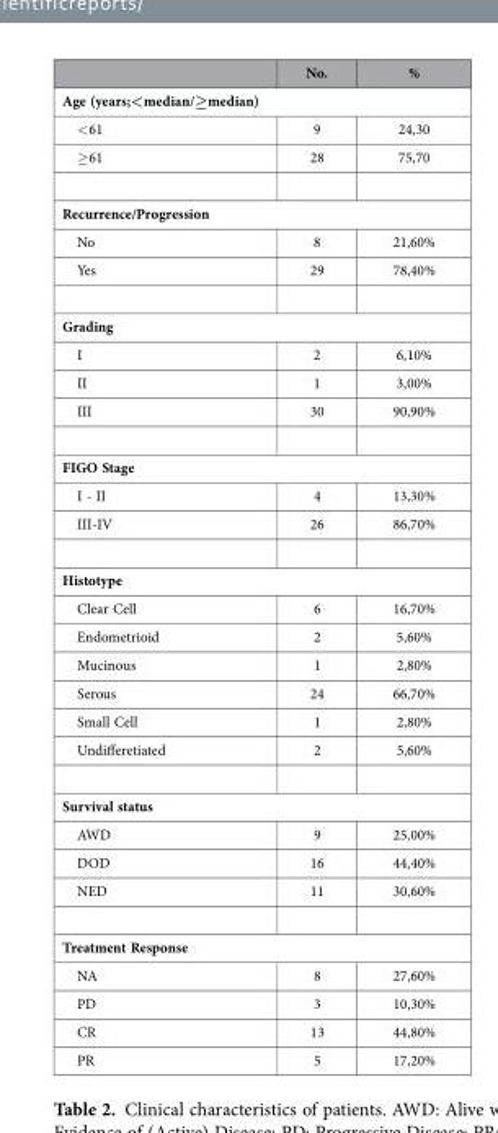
<table><thead><tr><td></td><td>No.</td><td>%</td></tr></thead><tbody><tr><td colspan="3">Age (years;&lt;median/≥median)</td></tr><tr><td>&lt; 61</td><td>9</td><td>24,30</td></tr><tr><td>≥ 61</td><td>28</td><td>75,70</td></tr><tr><td colspan="3">Recurrence/Progression</td></tr><tr><td>No</td><td>8</td><td>21,60%</td></tr><tr><td>Yes</td><td>29</td><td>78,40%</td></tr><tr><td colspan="3">Grading</td></tr><tr><td>I</td><td>2</td><td>6,10%</td></tr><tr><td>II</td><td>1</td><td>3,00%</td></tr><tr><td>III</td><td>30</td><td>90,90%</td></tr><tr><td colspan="3">FIGO Stage</td></tr><tr><td>I - II</td><td>4</td><td>13,30%</td></tr><tr><td>III-IV</td><td>26</td><td>86,70%</td></tr><tr><td colspan="3">Histotype</td></tr><tr><td>Clear Cell</td><td>6</td><td>16,70%</td></tr><tr><td>Endometrioid</td><td>2</td><td>5,60%</td></tr><tr><td>Mucinous</td><td>1</td><td>2,80%</td></tr><tr><td>Serous</td><td>24</td><td>66,70%</td></tr><tr><td>Small Cell</td><td>1</td><td>2,80%</td></tr><tr><td>Undifferetiated</td><td>2</td><td>5,60%</td></tr><tr><td colspan="3">Survival status</td></tr><tr><td>AWD</td><td>9</td><td>25,00%</td></tr><tr><td>DOD</td><td>16</td><td>44,40%</td></tr><tr><td>NED</td><td>11</td><td>30,60%</td></tr><tr><td colspan="3">Treatment Response</td></tr><tr><td>NA</td><td>8</td><td>27,60%</td></tr><tr><td>PD</td><td>3</td><td>10,30%</td></tr><tr><td>CR</td><td>13</td><td>44,80%</td></tr><tr><td>PR</td><td>5</td><td>17,20%</td></tr></tbody></table>